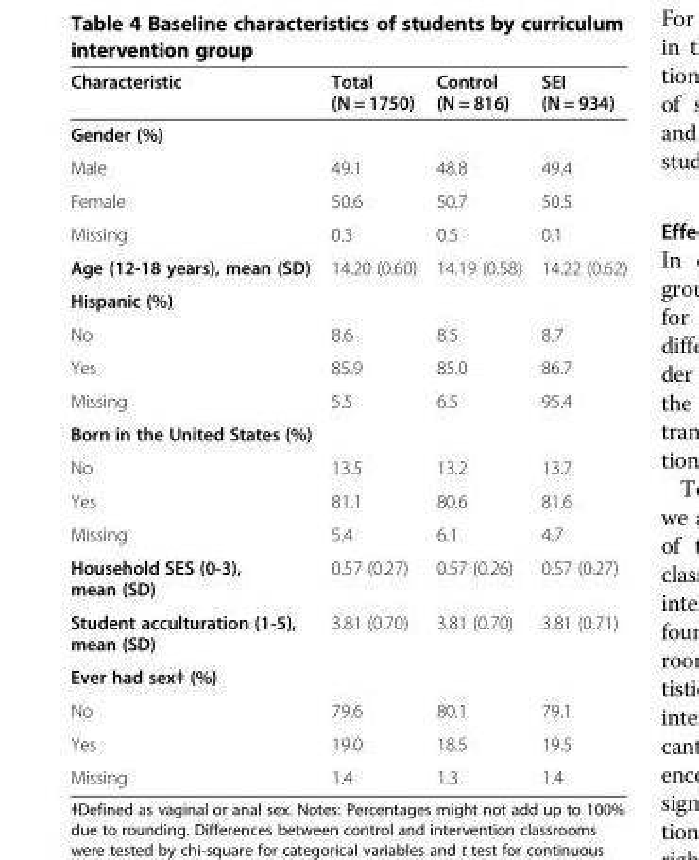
<table><thead><tr><td>Characteristic</td><td>Total (N = 1750)</td><td>Control (N = 816)</td><td>SEI (N = 934)</td></tr></thead><tbody><tr><td colspan="4">Gender (%)</td></tr><tr><td>Male</td><td>49.1</td><td>48.8</td><td>49.4</td></tr><tr><td>Female</td><td>50.6</td><td>50.7</td><td>50.5</td></tr><tr><td>Missing</td><td>0.3</td><td>0.5</td><td>0.1</td></tr><tr><td>Age (12-18 years), mean (SD)</td><td>14.20 (0.60)</td><td>14.19 (0.58)</td><td>14.22 (0.62)</td></tr><tr><td colspan="4">Hispanic (%)</td></tr><tr><td>No</td><td>8.6</td><td>8.5</td><td>8.7</td></tr><tr><td>Yes</td><td>85.9</td><td>85.0</td><td>86.7</td></tr><tr><td>Missing</td><td>5.5</td><td>6.5</td><td>95.4</td></tr><tr><td colspan="4">Born in the United States (%)</td></tr><tr><td>No</td><td>13.5</td><td>13.2</td><td>13.7</td></tr><tr><td>Yes</td><td>81.1</td><td>80.6</td><td>81.6</td></tr><tr><td>Missing</td><td>5.4</td><td>6.1</td><td>4.7</td></tr><tr><td>Household SES (0-3), mean (SD)</td><td>0.57 (0.27)</td><td>0.57 (0.26)</td><td>0.57 (0.27)</td></tr><tr><td>Student acculturation (1-5), mean (SD)</td><td>3.81 (0.70)</td><td>3.81 (0.70)</td><td>3.81 (0.71)</td></tr><tr><td colspan="4">Ever had sexǂ (%)</td></tr><tr><td>No</td><td>79.6</td><td>80.1</td><td>79.1</td></tr><tr><td>Yes</td><td>19.0</td><td>18.5</td><td>19.5</td></tr><tr><td>Missing</td><td>1.4</td><td>1.3</td><td>1.4</td></tr></tbody></table>